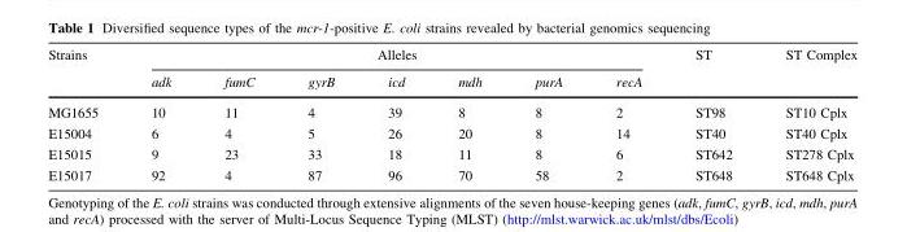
<table><thead><tr><td rowspan="2">Strains</td><td colspan="7">Alleles</td><td rowspan="2">ST</td><td rowspan="2">ST Complex</td></tr><tr><td>adk</td><td>fumC</td><td>gyrB</td><td>icd</td><td>mdh</td><td>purA</td><td>recA</td></tr></thead><tbody><tr><td>MG1655</td><td>10</td><td>11</td><td>4</td><td>39</td><td>8</td><td>8</td><td>2</td><td>ST98</td><td>ST10 Cplx</td></tr><tr><td>E15004</td><td>6</td><td>4</td><td>5</td><td>26</td><td>20</td><td>8</td><td>14</td><td>ST40</td><td>ST40 Cplx</td></tr><tr><td>E15015</td><td>9</td><td>23</td><td>33</td><td>18</td><td>11</td><td>8</td><td>6</td><td>ST642</td><td>ST278 Cplx</td></tr><tr><td>E15017</td><td>92</td><td>4</td><td>87</td><td>96</td><td>70</td><td>58</td><td>2</td><td>ST648</td><td>ST648 Cplx</td></tr></tbody></table>